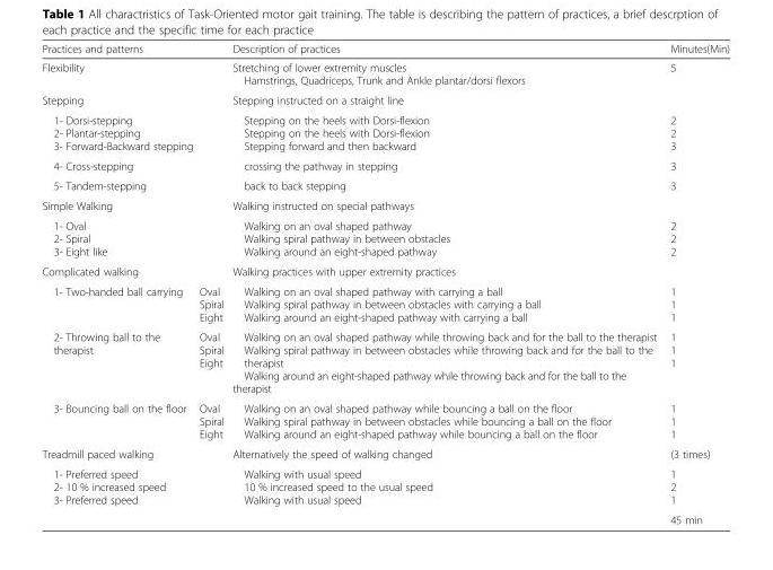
<table><thead><tr><td colspan="2">Practices and patterns</td><td>Description of practices</td><td>Minutes(Min)</td></tr></thead><tbody><tr><td colspan="2">Flexibility</td><td>Stretching of lower extremity muscles Hamstrings, Quadriceps, Trunk and Ankle plantar/dorsi flexors</td><td>5</td></tr><tr><td colspan="2">Stepping</td><td>Stepping instructed on a straight line</td><td></td></tr><tr><td colspan="2">1- Dorsi-stepping 2- Plantar-stepping 3- Forward-Backward stepping</td><td>Stepping on the heels with Dorsi-flexion Stepping on the heels with Dorsi-flexion Stepping forward and then backward</td><td>2 2 3</td></tr><tr><td colspan="2">4- Cross-stepping</td><td>crossing the pathway in stepping</td><td>3</td></tr><tr><td colspan="2">5- Tandem-stepping</td><td>back to back stepping</td><td>3</td></tr><tr><td colspan="2">Simple Walking</td><td>Walking instructed on special pathways</td><td></td></tr><tr><td colspan="2">1- Oval 2- Spiral 3- Eight like</td><td>Walking on an oval shaped pathway Walking spiral pathway in between obstacles Walking around an eight-shaped pathway</td><td>2 2 2</td></tr><tr><td>Complicated walking</td><td></td><td>Walking practices with upper extremity practices</td><td></td></tr><tr><td>1- Two-handed ball carrying</td><td>Oval Spiral Eight</td><td>Walking on an oval shaped pathway with carrying a ball Walking spiral pathway in between obstacles with carrying a ball Walking around an eight-shaped pathway with carrying a ball</td><td>1 1 1</td></tr><tr><td>2- Throwing ball to the therapist</td><td>Oval Spiral Eight</td><td>Walking on an oval shaped pathway while throwing back and for the ball to the therapist Walking spiral pathway in between obstacles while throwing back and for the ball to the therapist Walking around an eight-shaped pathway while throwing back and for the ball to the therapist</td><td>1 1 1</td></tr><tr><td>3- Bouncing ball on the floor</td><td>Oval Spiral Eight</td><td>Walking on an oval shaped pathway while bouncing a ball on the floor Walking spiral pathway in between obstacles while bouncing a ball on the floor Walking around an eight-shaped pathway while bouncing a ball on the floor</td><td>1 1 1</td></tr><tr><td colspan="2">Treadmill paced walking</td><td>Alternatively the speed of walking changed</td><td>(3 times)</td></tr><tr><td rowspan="2" colspan="2">1- Preferred speed 2- 10 % increased speed 3- Preferred speed</td><td rowspan="2">Walking with usual speed 10 % increased speed to the usual speed Walking with usual speed</td><td>1 2 1</td></tr><tr><td>45 min</td></tr></tbody></table>